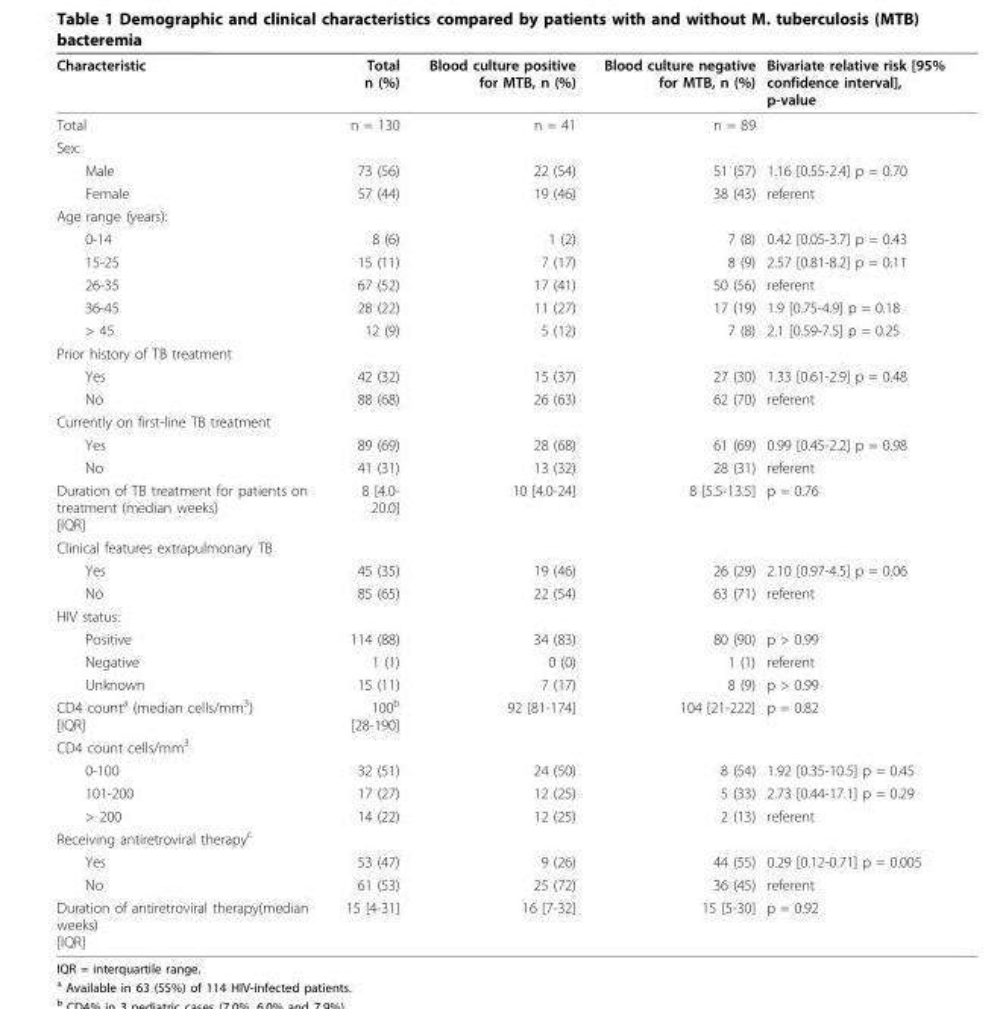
<table><thead><tr><td>Characteristic</td><td>Total n (%)</td><td>Blood culture positive for MTB, n (%)</td><td>Blood culture negative for MTB, n (%)</td><td>Bivariate relative risk [95% confidence interval], p-value</td></tr></thead><tbody><tr><td>Total</td><td>n = 130</td><td>n = 41</td><td>n = 89</td><td></td></tr><tr><td colspan="5">Sex:</td></tr><tr><td>Male</td><td>73 (56)</td><td>22 (54)</td><td>51 (57)</td><td>1.16 [0.55-2.4] p = 0.70</td></tr><tr><td>Female</td><td>57 (44)</td><td>19 (46)</td><td>38 (43)</td><td>referent</td></tr><tr><td colspan="5">Age range (years):</td></tr><tr><td>0-14</td><td>8 (6)</td><td>1 (2)</td><td>7 (8)</td><td>0.42 [0.05-3.7] p = 0.43</td></tr><tr><td>15-25</td><td>15 (11)</td><td>7 (17)</td><td>8 (9)</td><td>2.57 [0.81-8.2] p = 0.11</td></tr><tr><td>26-35</td><td>67 (52)</td><td>17 (41)</td><td>50 (56)</td><td>referent</td></tr><tr><td>36-45</td><td>28 (22)</td><td>11 (27)</td><td>17 (19)</td><td>1.9 [0.75-4.9] p = 0.18</td></tr><tr><td>&gt; 45</td><td>12 (9)</td><td>5 (12)</td><td>7 (8)</td><td>2.1 [0.59-7.5] p = 0.25</td></tr><tr><td colspan="5">Prior history of TB treatment</td></tr><tr><td>Yes</td><td>42 (32)</td><td>15 (37)</td><td>27 (30)</td><td>1.33 [0.61-2.9] p = 0.48</td></tr><tr><td>No</td><td>88 (68)</td><td>26 (63)</td><td>62 (70)</td><td>referent</td></tr><tr><td colspan="5">Currently on first-line TB treatment</td></tr><tr><td>Yes</td><td>89 (69)</td><td>28 (68)</td><td>61 (69)</td><td>0.99 [0.45-2.2] p = 0.98</td></tr><tr><td>No</td><td>41 (31)</td><td>13 (32)</td><td>28 (31)</td><td>referent</td></tr><tr><td>Duration of TB treatment for patients on treatment (median weeks) [IQR]</td><td>8 [4.0- 20.0]</td><td>10 [4.0-24]</td><td>8 [5.5-13.5]</td><td>p = 0.76</td></tr><tr><td colspan="5">Clinical features extrapulmonary TB</td></tr><tr><td>Yes</td><td>45 (35)</td><td>19 (46)</td><td>26 (29)</td><td>2.10 [0.97-4.5] p = 0.06</td></tr><tr><td>No</td><td>85 (65)</td><td>22 (54)</td><td>63 (71)</td><td>referent</td></tr><tr><td colspan="5">HIV status:</td></tr><tr><td>Positive</td><td>114 (88)</td><td>34 (83)</td><td>80 (90)</td><td>p &gt; 0.99</td></tr><tr><td>Negative</td><td>1 (1)</td><td>0 (0)</td><td>1 (1)</td><td>referent</td></tr><tr><td>Unknown</td><td>15 (11)</td><td>7 (17)</td><td>8 (9)</td><td>p &gt; 0.99</td></tr><tr><td>CD4 count<sup>a</sup> (median cells/mm<sup>3</sup>) [IQR]</td><td>100<sup>b</sup> [28-190]</td><td>92 [81-174]</td><td>104 [21-222]</td><td>p = 0.82</td></tr><tr><td colspan="5">CD4 count cells/mm<sup>3</sup></td></tr><tr><td>0-100</td><td>32 (51)</td><td>24 (50)</td><td>8 (54)</td><td>1.92 [0.35-10.5] p = 0.45</td></tr><tr><td>101-200</td><td>17 (27)</td><td>12 (25)</td><td>5 (33)</td><td>2.73 [0.44-17.1] p = 0.29</td></tr><tr><td>&gt; 200</td><td>14 (22)</td><td>12 (25)</td><td>2 (13)</td><td>referent</td></tr><tr><td colspan="5">Receiving antiretroviral therapy<sup>c</sup></td></tr><tr><td>Yes</td><td>53 (47)</td><td>9 (26)</td><td>44 (55)</td><td>0.29 [0.12-0.71] p = 0.005</td></tr><tr><td>No</td><td>61 (53)</td><td>25 (72)</td><td>36 (45)</td><td>referent</td></tr><tr><td>Duration of antiretroviral therapy(median weeks) [IQR]</td><td>15 [4-31]</td><td>16 [7-32]</td><td>15 [5-30]</td><td>p = 0.92</td></tr></tbody></table>